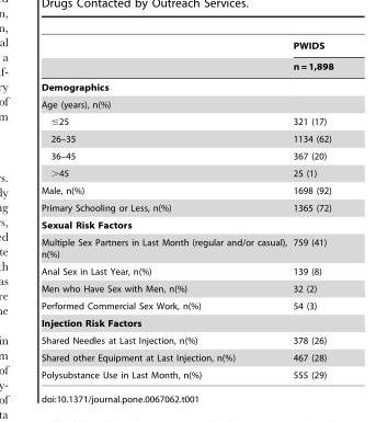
<table><thead><tr><td rowspan="2"></td><td rowspan="2">PWIDS n = 1,898</td></tr><tr></tr></thead><tbody><tr><td colspan="2">Demographics</td></tr><tr><td colspan="2">Age (years), n(%)</td></tr><tr><td>≤25</td><td>321 (17)</td></tr><tr><td>26–35</td><td>1134 (62)</td></tr><tr><td>36–45</td><td>367 (20)</td></tr><tr><td>&gt;45</td><td>25 (1)</td></tr><tr><td>Male, n(%)</td><td>1698 (92)</td></tr><tr><td>Primary Schooling or Less, n(%)</td><td>1365 (72)</td></tr><tr><td colspan="2">Sexual Risk Factors</td></tr><tr><td>Multiple Sex Partners in Last Month (regular and/or casual), n(%)</td><td>759 (41)</td></tr><tr><td>Anal Sex in Last Year, n(%)</td><td>139 (8)</td></tr><tr><td>Men who Have Sex with Men, n(%)</td><td>32 (2)</td></tr><tr><td>Performed Commercial Sex Work, n(%)</td><td>54 (3)</td></tr><tr><td colspan="2">Injection Risk Factors</td></tr><tr><td>Shared Needles at Last Injection, n(%)</td><td>378 (26)</td></tr><tr><td>Shared other Equipment at Last Injection, n(%)</td><td>467 (28)</td></tr><tr><td>Polysubstance Use in Last Month, n(%)</td><td>555 (29)</td></tr></tbody></table>